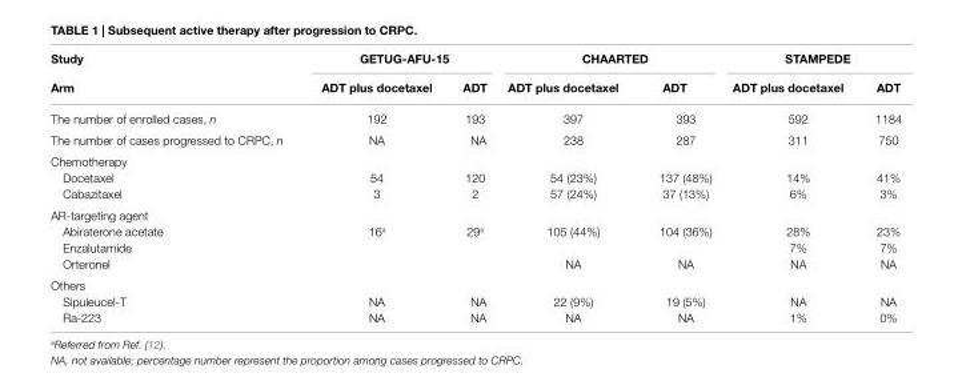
<table><thead><tr><td rowspan="2">Study Arm</td><td colspan="2">GeTUG-AFU-15</td><td colspan="2">CHAARTeD</td><td colspan="2">STAMPeDe</td></tr><tr><td>ADT plus docetaxel</td><td>ADT</td><td>ADT plus docetaxel</td><td>ADT</td><td>ADT plus docetaxel</td><td>ADT</td></tr></thead><tbody><tr><td>The number of enrolled cases, n</td><td>192</td><td>193</td><td>397</td><td>393</td><td>592</td><td>1184</td></tr><tr><td>The number of cases progressed to CRPC, n</td><td>NA</td><td>NA</td><td>238</td><td>287</td><td>311</td><td>750</td></tr><tr><td colspan="7">Chemotherapy</td></tr><tr><td>Docetaxel</td><td>54</td><td>120</td><td>54 (23%)</td><td>137 (48%)</td><td>14%</td><td>41%</td></tr><tr><td>Cabazitaxel</td><td>3</td><td>2</td><td>57 (24%)</td><td>37 (13%)</td><td>6%</td><td>3%</td></tr><tr><td colspan="7">AR-targeting agent</td></tr><tr><td>Abiraterone acetate</td><td rowspan="3">16<sup>a</sup></td><td rowspan="3">29<sup>a</sup></td><td rowspan="2">105 (44%)</td><td rowspan="2">104 (36%)</td><td>28%</td><td>23%</td></tr><tr><td>Enzalutamide</td><td>7%</td><td>7%</td></tr><tr><td>Orteronel</td><td>NA</td><td>NA</td><td>NA</td><td>NA</td></tr><tr><td colspan="7">Others</td></tr><tr><td>Sipuleucel-T</td><td>NA</td><td>NA</td><td>22 (9%)</td><td>19 (5%)</td><td>NA</td><td>NA</td></tr><tr><td>Ra-223</td><td>NA</td><td>NA</td><td>NA</td><td>NA</td><td>1%</td><td>0%</td></tr></tbody></table>